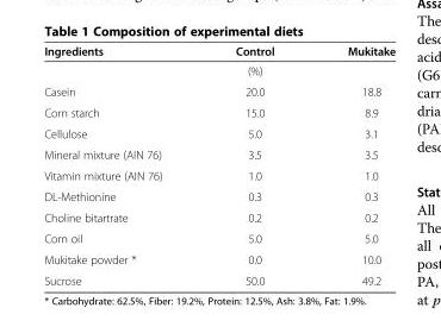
<table><thead><tr><td>Ingredients</td><td>Control</td><td>Mukitake</td></tr></thead><tbody><tr><td></td><td>(%)</td><td></td></tr><tr><td>Casein</td><td>20.0</td><td>18.8</td></tr><tr><td>Corn starch</td><td>15.0</td><td>8.9</td></tr><tr><td>Cellulose</td><td>5.0</td><td>3.1</td></tr><tr><td>Mineral mixture (AIN 76)</td><td>3.5</td><td>3.5</td></tr><tr><td>Vitamin mixture (AIN 76)</td><td>1.0</td><td>1.0</td></tr><tr><td>DL-Methionine</td><td>0.3</td><td>0.3</td></tr><tr><td>Choline bitartrate</td><td>0.2</td><td>0.2</td></tr><tr><td>Corn oil</td><td>5.0</td><td>5.0</td></tr><tr><td>Mukitake powder *</td><td>0.0</td><td>10.0</td></tr><tr><td>Sucrose</td><td>50.0</td><td>49.2</td></tr></tbody></table>